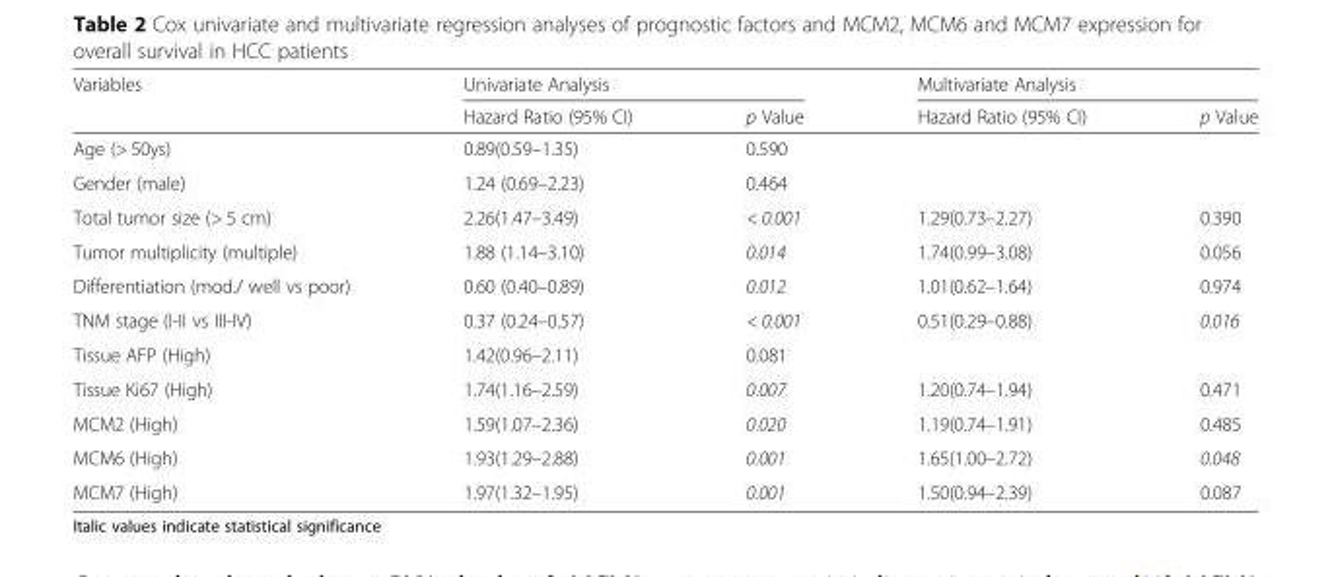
<table><thead><tr><td rowspan="2">Variables</td><td colspan="2">Univariate Analysis</td><td colspan="2">Multivariate Analysis</td></tr><tr><td>Hazard Ratio (95% CI)</td><td>p Value</td><td>Hazard Ratio (95% CI)</td><td>p Value</td></tr></thead><tbody><tr><td>Age (&gt; 50ys)</td><td>0.89(0.59–1.35)</td><td>0.590</td><td></td><td></td></tr><tr><td>Gender (male)</td><td>1.24 (0.69–2.23)</td><td>0.464</td><td></td><td></td></tr><tr><td>Total tumor size (&gt; 5 cm)</td><td>2.26(1.47–3.49)</td><td>&lt; 0.001</td><td>1.29(0.73–2.27)</td><td>0.390</td></tr><tr><td>Tumor multiplicity (multiple)</td><td>1.88 (1.14–3.10)</td><td>0.014</td><td>1.74(0.99–3.08)</td><td>0.056</td></tr><tr><td>Differentiation (mod./ well vs poor)</td><td>0.60 (0.40–0.89)</td><td>0.012</td><td>1.01(0.62–1.64)</td><td>0.974</td></tr><tr><td>TNM stage (I-II vs III-IV)</td><td>0.37 (0.24–0.57)</td><td>&lt; 0.001</td><td>0.51(0.29–0.88)</td><td>0.016</td></tr><tr><td>Tissue AFP (High)</td><td>1.42(0.96–2.11)</td><td>0.081</td><td></td><td></td></tr><tr><td>Tissue Ki67 (High)</td><td>1.74(1.16–2.59)</td><td>0.007</td><td>1.20(0.74–1.94)</td><td>0.471</td></tr><tr><td>MCM2 (High)</td><td>1.59(1.07–2.36)</td><td>0.020</td><td>1.19(0.74–1.91)</td><td>0.485</td></tr><tr><td>MCM6 (High)</td><td>1.93(1.29–2.88)</td><td>0.001</td><td>1.65(1.00–2.72)</td><td>0.048</td></tr><tr><td>MCM7 (High)</td><td>1.97(1.32–1.95)</td><td>0.001</td><td>1.50(0.94–2.39)</td><td>0.087</td></tr></tbody></table>